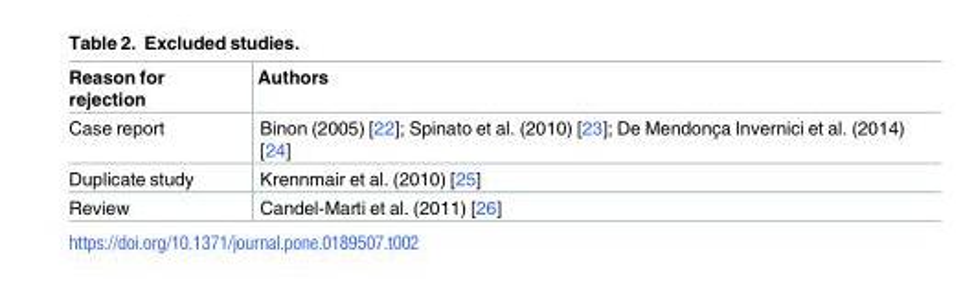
<table><thead><tr><td>Reason for rejection</td><td>Authors</td></tr></thead><tbody><tr><td>Case report</td><td>Binon (2005) [22]; Spinato et al. (2010) [23]; De Mendonc¸a Invernici et al. (2014) [24]</td></tr><tr><td>Duplicate study</td><td>Krennmair et al. (2010) [25]</td></tr><tr><td>Review</td><td>Candel-Marti et al. (2011) [26]</td></tr></tbody></table>